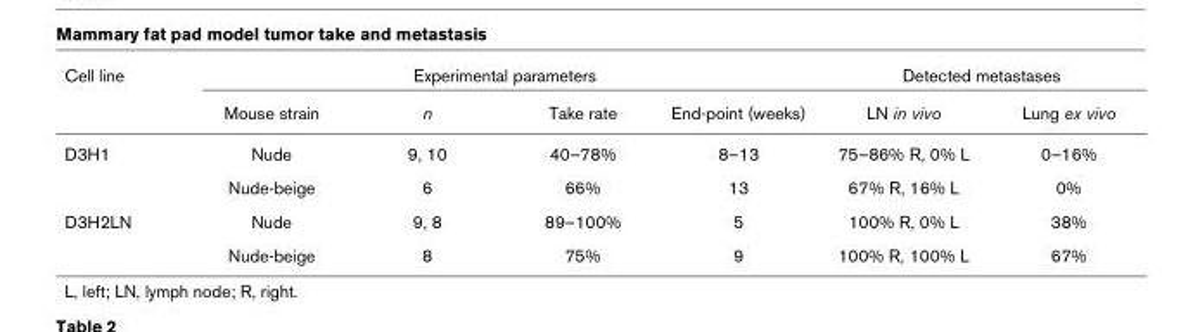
<table><thead><tr><td rowspan="2">Cell line</td><td colspan="4">Experimental parameters</td><td colspan="2">Detected metastases</td></tr><tr><td>Mouse strain</td><td>n</td><td>Take rate</td><td>End-point (weeks)</td><td>LN in vivo</td><td>Lung ex vivo</td></tr></thead><tbody><tr><td rowspan="2">D3H1</td><td>Nude</td><td>9, 10</td><td>40–78%</td><td>8–13</td><td>75–86% R, 0% L</td><td>0–16%</td></tr><tr><td>Nude-beige</td><td>6</td><td>66%</td><td>13</td><td>67% R, 16% L</td><td>0%</td></tr><tr><td rowspan="2">D3H2LN</td><td>Nude</td><td>9, 8</td><td>89–100%</td><td>5</td><td>100% R, 0% L</td><td>38%</td></tr><tr><td>Nude-beige</td><td>8</td><td>75%</td><td>9</td><td>100% R, 100% L</td><td>67%</td></tr></tbody></table>